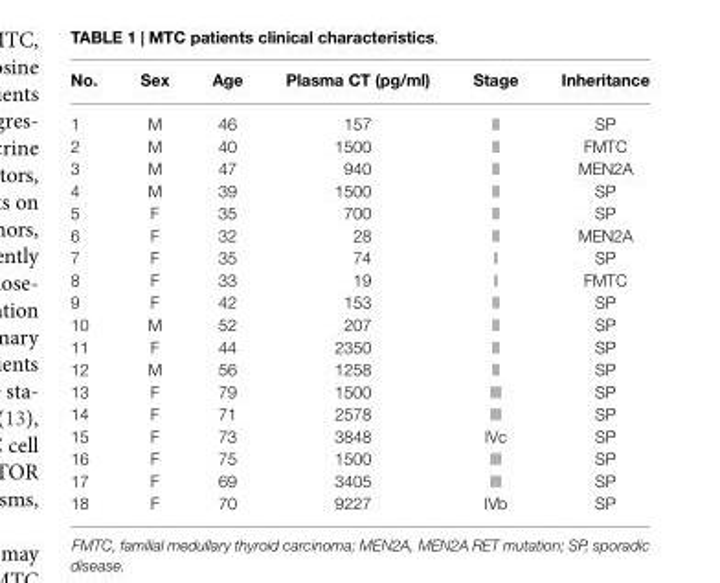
<table><thead><tr><td>No.</td><td>Sex</td><td>Age</td><td>Plasma CT (pg/ml)</td><td>Stage</td><td>Inheritance</td></tr></thead><tbody><tr><td>1</td><td>M</td><td>46</td><td>157</td><td>II</td><td>SP</td></tr><tr><td>2</td><td>M</td><td>40</td><td>1500</td><td>II</td><td>FMTC</td></tr><tr><td>3</td><td>M</td><td>47</td><td>940</td><td>II</td><td>MEN2A</td></tr><tr><td>4</td><td>M</td><td>39</td><td>1500</td><td>II</td><td>SP</td></tr><tr><td>5</td><td>F</td><td>35</td><td>700</td><td>II</td><td>SP</td></tr><tr><td>6</td><td>F</td><td>32</td><td>28</td><td>II</td><td>MEN2A</td></tr><tr><td>7</td><td>F</td><td>35</td><td>74</td><td>I</td><td>SP</td></tr><tr><td>8</td><td>F</td><td>33</td><td>19</td><td>I</td><td>FMTC</td></tr><tr><td>9</td><td>F</td><td>42</td><td>153</td><td>II</td><td>SP</td></tr><tr><td>10</td><td>M</td><td>52</td><td>207</td><td>II</td><td>SP</td></tr><tr><td>11</td><td>F</td><td>44</td><td>2350</td><td>II</td><td>SP</td></tr><tr><td>12</td><td>M</td><td>56</td><td>1258</td><td>II</td><td>SP</td></tr><tr><td>13</td><td>F</td><td>79</td><td>1500</td><td>III</td><td>SP</td></tr><tr><td>14</td><td>F</td><td>71</td><td>2578</td><td>III</td><td>SP</td></tr><tr><td>15</td><td>F</td><td>73</td><td>3848</td><td>IVc</td><td>SP</td></tr><tr><td>16</td><td>F</td><td>75</td><td>1500</td><td>III</td><td>SP</td></tr><tr><td>17</td><td>F</td><td>69</td><td>3405</td><td>III</td><td>SP</td></tr><tr><td>18</td><td>F</td><td>70</td><td>9227</td><td>IVb</td><td>SP</td></tr></tbody></table>